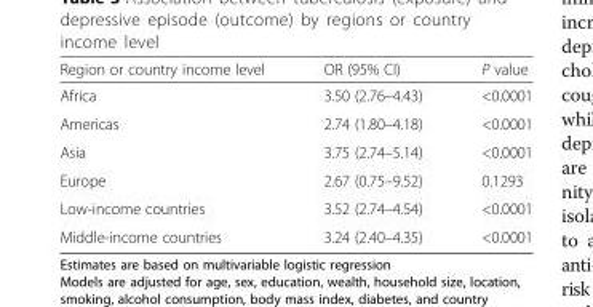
<table><thead><tr><td>Region or country income level</td><td>OR (95% CI)</td><td>P value</td></tr></thead><tbody><tr><td>Africa</td><td>3.50 (2.76–4.43)</td><td>&lt;0.0001</td></tr><tr><td>Americas</td><td>2.74 (1.80–4.18)</td><td>&lt;0.0001</td></tr><tr><td>Asia</td><td>3.75 (2.74–5.14)</td><td>&lt;0.0001</td></tr><tr><td>Europe</td><td>2.67 (0.75–9.52)</td><td>0.1293</td></tr><tr><td>Low-income countries</td><td>3.52 (2.74–4.54)</td><td>&lt;0.0001</td></tr><tr><td>Middle-income countries</td><td>3.24 (2.40–4.35)</td><td>&lt;0.0001</td></tr></tbody></table>